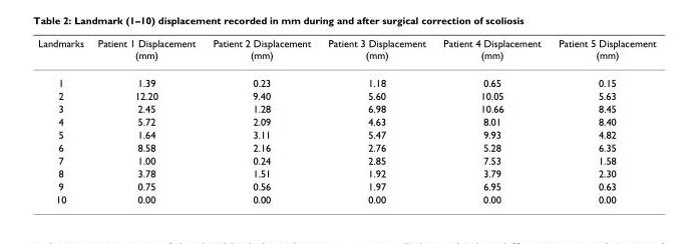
<table><thead><tr><td>Landmarks</td><td>Patient 1 Displacement (mm)</td><td>Patient 2 Displacement (mm)</td><td>Patient 3 Displacement (mm)</td><td>Patient 4 Displacement (mm)</td><td>Patient 5 Displacement (mm)</td></tr></thead><tbody><tr><td>1</td><td>1.39</td><td>0.23</td><td>1.18</td><td>0.65</td><td>0.15</td></tr><tr><td>2</td><td>12.20</td><td>9.40</td><td>5.60</td><td>10.05</td><td>5.63</td></tr><tr><td>3</td><td>2.45</td><td>1.28</td><td>6.98</td><td>10.66</td><td>8.45</td></tr><tr><td>4</td><td>5.72</td><td>2.09</td><td>4.63</td><td>8.01</td><td>8.40</td></tr><tr><td>5</td><td>1.64</td><td>3.11</td><td>5.47</td><td>9.93</td><td>4.82</td></tr><tr><td>6</td><td>8.58</td><td>2.16</td><td>2.76</td><td>5.28</td><td>6.35</td></tr><tr><td>7</td><td>1.00</td><td>0.24</td><td>2.85</td><td>7.53</td><td>1.58</td></tr><tr><td>8</td><td>3.78</td><td>1.51</td><td>1.92</td><td>3.79</td><td>2.30</td></tr><tr><td>9</td><td>0.75</td><td>0.56</td><td>1.97</td><td>6.95</td><td>0.63</td></tr><tr><td>10</td><td>0.00</td><td>0.00</td><td>0.00</td><td>0.00</td><td>0.00</td></tr></tbody></table>